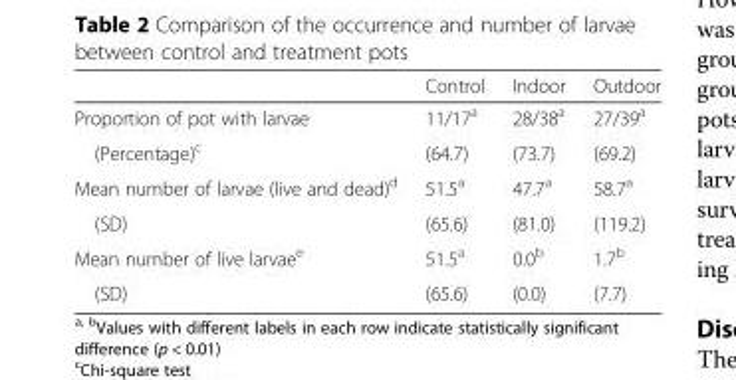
<table><thead><tr><td></td><td>Control</td><td>Indoor</td><td>Outdoor</td></tr></thead><tbody><tr><td>Proportion of pot with larvae</td><td>11/17<sup>a</sup></td><td>28/38<sup>a</sup></td><td>27/39<sup>a</sup></td></tr><tr><td>(Percentage)<sup>c</sup></td><td>(64.7)</td><td>(73.7)</td><td>(69.2)</td></tr><tr><td>Mean number of larvae (live and dead)<sup>d</sup></td><td>51.5<sup>a</sup></td><td>47.7<sup>a</sup></td><td>58.7<sup>a</sup></td></tr><tr><td>(SD)</td><td>(65.6)</td><td>(81.0)</td><td>(119.2)</td></tr><tr><td>Mean number of live larvae<sup>e</sup></td><td>51.5<sup>a</sup></td><td>0.0<sup>b</sup></td><td>1.7<sup>b</sup></td></tr><tr><td>(SD)</td><td>(65.6)</td><td>(0.0)</td><td>(7.7)</td></tr></tbody></table>